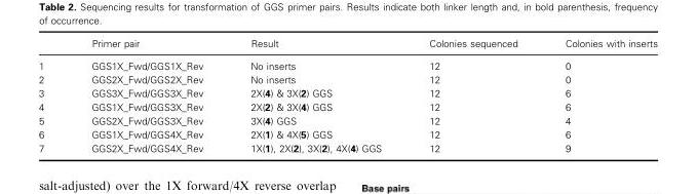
<table><thead><tr><td></td><td>Primer pair</td><td>Result</td><td>Colonies sequenced</td><td>Colonies with inserts</td></tr></thead><tbody><tr><td>1</td><td>GGS1X_Fwd/GGS1X_Rev</td><td>No inserts</td><td>12</td><td>0</td></tr><tr><td>2</td><td>GGS2X_Fwd/GGS2X_Rev</td><td>No inserts</td><td>12</td><td>0</td></tr><tr><td>3</td><td>GGS3X_Fwd/GGS3X_Rev</td><td>2X(4) &amp; 3X(2) GGS</td><td>12</td><td>6</td></tr><tr><td>4</td><td>GGS1X_Fwd/GGS3X_Rev</td><td>2X(2) &amp; 3X(4) GGS</td><td>12</td><td>6</td></tr><tr><td>5</td><td>GGS2X_Fwd/GGS3X_Rev</td><td>3X(4) GGS</td><td>12</td><td>4</td></tr><tr><td>6</td><td>GGS1X_Fwd/GGS4X_Rev</td><td>2X(1) &amp; 4X(5) GGS</td><td>12</td><td>6</td></tr><tr><td>7</td><td>GGS2X_Fwd/GGS4X_Rev</td><td>1X(1), 2X(2), 3X(2), 4X(4) GGS</td><td>12</td><td>9</td></tr></tbody></table>